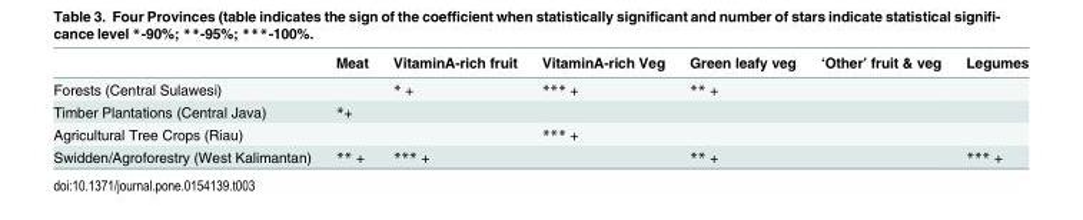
<table><thead><tr><td></td><td>Meat</td><td>VitaminA-rich fruit</td><td>VitaminA-rich Veg</td><td>Green leafy veg</td><td>‘Other’ fruit &amp; veg</td><td>Legumes</td></tr></thead><tbody><tr><td>Forests (Central Sulawesi)</td><td></td><td>* +</td><td>*** +</td><td>** +</td><td></td><td></td></tr><tr><td>Timber Plantations (Central Java)</td><td>*+</td><td></td><td></td><td></td><td></td><td></td></tr><tr><td>Agricultural Tree Crops (Riau)</td><td></td><td></td><td>*** +</td><td></td><td></td><td></td></tr><tr><td>Swidden/Agroforestry (West Kalimantan)</td><td>** +</td><td>*** +</td><td></td><td>** +</td><td></td><td>*** +</td></tr></tbody></table>